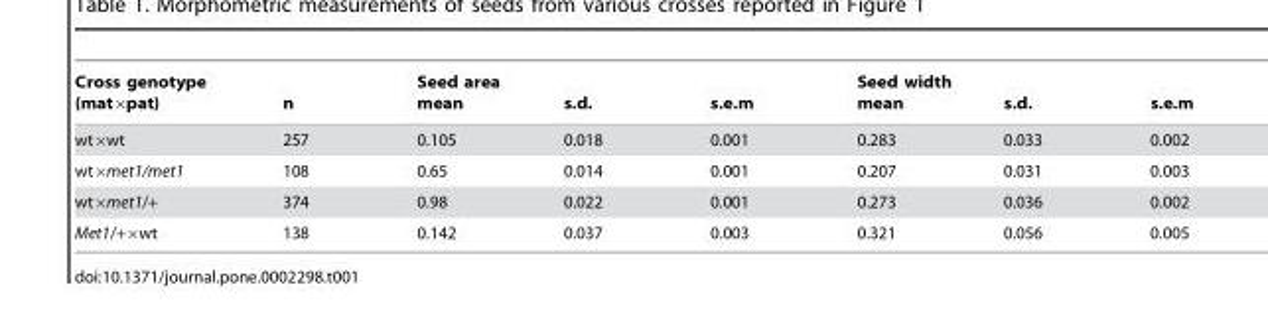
<table><thead><tr><td>Cross genotype (mat×pat)</td><td>n</td><td>Seed area mean</td><td>s.d.</td><td>s.e.m</td><td>Seed width mean</td><td>s.d.</td><td>s.e.m</td></tr></thead><tbody><tr><td>wt×wt</td><td>257</td><td>0.105</td><td>0.018</td><td>0.001</td><td>0.283</td><td>0.033</td><td>0.002</td></tr><tr><td>wt×met1/met1</td><td>108</td><td>0.65</td><td>0.014</td><td>0.001</td><td>0.207</td><td>0.031</td><td>0.003</td></tr><tr><td>wt×met1/+</td><td>374</td><td>0.98</td><td>0.022</td><td>0.001</td><td>0.273</td><td>0.036</td><td>0.002</td></tr><tr><td>Met1/+×wt</td><td>138</td><td>0.142</td><td>0.037</td><td>0.003</td><td>0.321</td><td>0.056</td><td>0.005</td></tr></tbody></table>